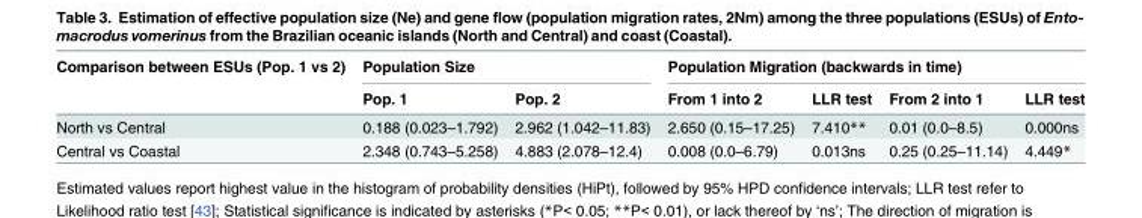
<table><thead><tr><td rowspan="2">Comparison between ESUs (Pop. 1 vs 2)</td><td colspan="2">Population Size</td><td colspan="4">Population Migration (backwards in time)</td></tr><tr><td>Pop. 1</td><td>Pop. 2</td><td>From 1 into 2</td><td>LLR test</td><td>From 2 into 1</td><td>LLR test</td></tr></thead><tbody><tr><td>North vs Central</td><td>0.188 (0.023–1.792)</td><td>2.962 (1.042–11.83)</td><td>2.650 (0.15–17.25)</td><td>7.410**</td><td>0.01 (0.0–8.5)</td><td>0.000ns</td></tr><tr><td>Central vs Coastal</td><td>2.348 (0.743–5.258)</td><td>4.883 (2.078–12.4)</td><td>0.008 (0.0–6.79)</td><td>0.013ns</td><td>0.25 (0.25–11.14)</td><td>4.449*</td></tr></tbody></table>